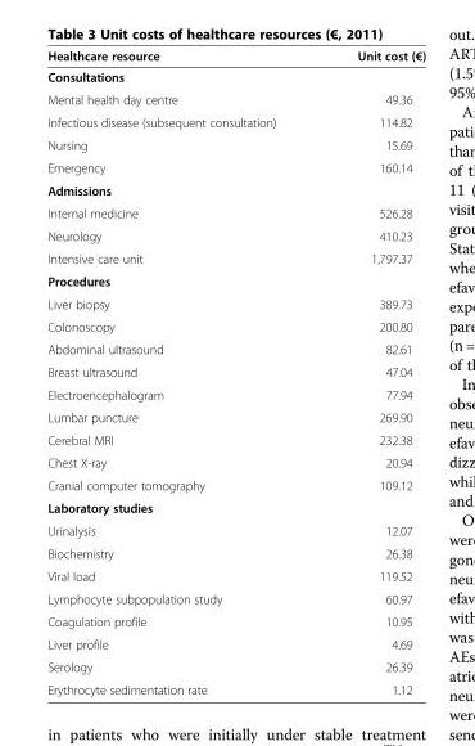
<table><thead><tr><td>Healthcare resource</td><td>Unit cost (€)</td></tr></thead><tbody><tr><td colspan="2">Consultations</td></tr><tr><td>Mental health day centre</td><td>49.36</td></tr><tr><td>Infectious disease (subsequent consultation)</td><td>114.82</td></tr><tr><td>Nursing</td><td>15.69</td></tr><tr><td>Emergency</td><td>160.14</td></tr><tr><td colspan="2">Admissions</td></tr><tr><td>Internal medicine</td><td>526.28</td></tr><tr><td>Neurology</td><td>410.23</td></tr><tr><td>Intensive care unit</td><td>1,797.37</td></tr><tr><td colspan="2">Procedures</td></tr><tr><td>Liver biopsy</td><td>389.73</td></tr><tr><td>Colonoscopy</td><td>200.80</td></tr><tr><td>Abdominal ultrasound</td><td>82.61</td></tr><tr><td>Breast ultrasound</td><td>47.04</td></tr><tr><td>Electroencephalogram</td><td>77.94</td></tr><tr><td>Lumbar puncture</td><td>269.90</td></tr><tr><td>Cerebral MRI</td><td>232.38</td></tr><tr><td>Chest X-ray</td><td>20.94</td></tr><tr><td>Cranial computer tomography</td><td>109.12</td></tr><tr><td colspan="2">Laboratory studies</td></tr><tr><td>Urinalysis</td><td>12.07</td></tr><tr><td>Biochemistry</td><td>26.38</td></tr><tr><td>Viral load</td><td>119.52</td></tr><tr><td>Lymphocyte subpopulation study</td><td>60.97</td></tr><tr><td>Coagulation profile</td><td>10.95</td></tr><tr><td>Liver profile</td><td>4.69</td></tr><tr><td>Serology</td><td>26.39</td></tr><tr><td>Erythrocyte sedimentation rate</td><td>1.12</td></tr></tbody></table>